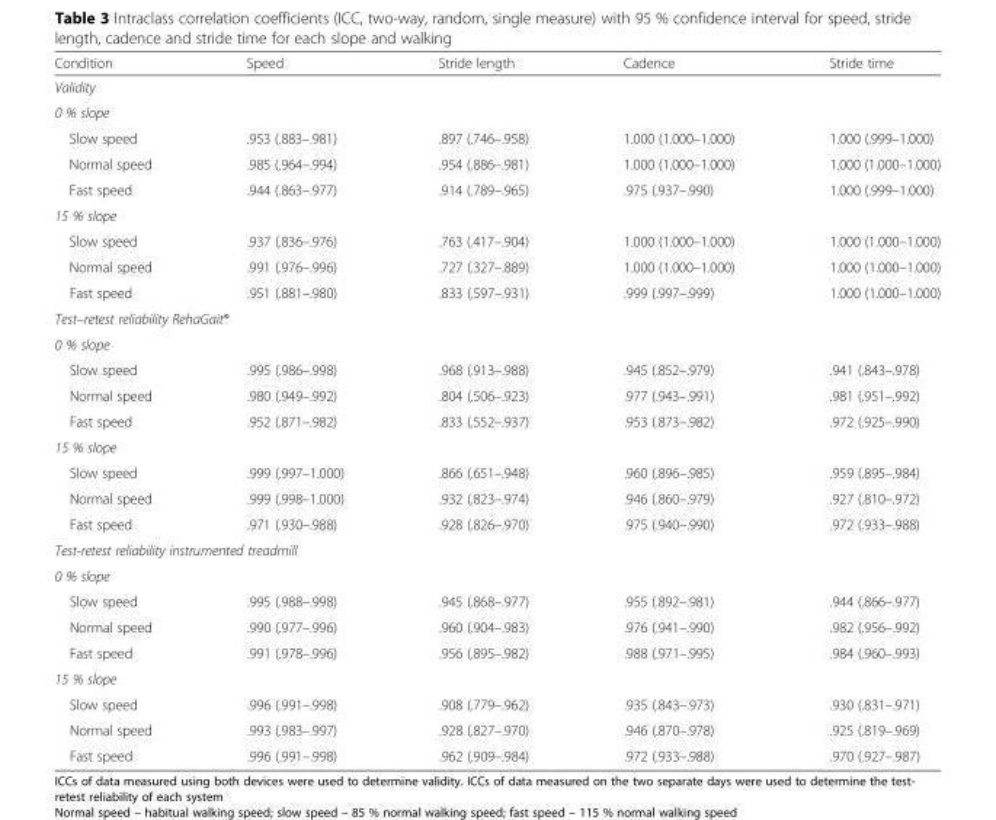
<table><thead><tr><td>Condition</td><td>Speed</td><td>Stride length</td><td>Cadence</td><td>Stride time</td></tr></thead><tbody><tr><td colspan="5">Validity</td></tr><tr><td colspan="5">0 % slope</td></tr><tr><td>Slow speed</td><td>.953 (.883–.981)</td><td>.897 (.746–.958)</td><td>1.000 (1.000–1.000)</td><td>1.000 (.999–1.000)</td></tr><tr><td>Normal speed</td><td>.985 (.964–.994)</td><td>.954 (.886–.981)</td><td>1.000 (1.000–1.000)</td><td>1.000 (1.000–1.000)</td></tr><tr><td>Fast speed</td><td>.944 (.863–.977)</td><td>.914 (.789–.965)</td><td>.975 (.937–.990)</td><td>1.000 (.999–1.000)</td></tr><tr><td colspan="5">15 % slope</td></tr><tr><td>Slow speed</td><td>.937 (.836–.976)</td><td>.763 (.417–.904)</td><td>1.000 (1.000–1.000)</td><td>1.000 (1.000–1.000)</td></tr><tr><td>Normal speed</td><td>.991 (.976–.996)</td><td>.727 (.327–.889)</td><td>1.000 (1.000–1.000)</td><td>1.000 (1.000–1.000)</td></tr><tr><td>Fast speed</td><td>.951 (.881–.980)</td><td>.833 (.597–.931)</td><td>.999 (.997–.999)</td><td>1.000 (1.000–1.000)</td></tr><tr><td colspan="5">Test–retest reliability RehaGait®</td></tr><tr><td colspan="5">0 % slope</td></tr><tr><td>Slow speed</td><td>.995 (.986–.998)</td><td>.968 (.913–.988)</td><td>.945 (.852–.979)</td><td>.941 (.843–.978)</td></tr><tr><td>Normal speed</td><td>.980 (.949–.992)</td><td>.804 (.506–.923)</td><td>.977 (.943–.991)</td><td>.981 (.951–.992)</td></tr><tr><td>Fast speed</td><td>.952 (.871–.982)</td><td>.833 (.552–.937)</td><td>.953 (.873–.982)</td><td>.972 (.925–.990)</td></tr><tr><td colspan="5">15 % slope</td></tr><tr><td>Slow speed</td><td>.999 (.997–1.000)</td><td>.866 (.651–.948)</td><td>.960 (.896–.985)</td><td>.959 (.895–.984)</td></tr><tr><td>Normal speed</td><td>.999 (.998–1.000)</td><td>.932 (.823–.974)</td><td>.946 (.860–.979)</td><td>.927 (.810–.972)</td></tr><tr><td>Fast speed</td><td>.971 (.930–.988)</td><td>.928 (.826–.970)</td><td>.975 (.940–.990)</td><td>.972 (.933–.988)</td></tr><tr><td colspan="5">Test-retest reliability instrumented treadmill</td></tr><tr><td colspan="5">0 % slope</td></tr><tr><td>Slow speed</td><td>.995 (.988–.998)</td><td>.945 (.868–.977)</td><td>.955 (.892–.981)</td><td>.944 (.866–.977)</td></tr><tr><td>Normal speed</td><td>.990 (.977–.996)</td><td>.960 (.904–.983)</td><td>.976 (.941–.990)</td><td>.982 (.956–.992)</td></tr><tr><td>Fast speed</td><td>.991 (.978–.996)</td><td>.956 (.895–.982)</td><td>.988 (.971–.995)</td><td>.984 (.960–.993)</td></tr><tr><td colspan="5">15 % slope</td></tr><tr><td>Slow speed</td><td>.996 (.991–.998)</td><td>.908 (.779–.962)</td><td>.935 (.843–.973)</td><td>.930 (.831–.971)</td></tr><tr><td>Normal speed</td><td>.993 (.983–.997)</td><td>.928 (.827–.970)</td><td>.946 (.870–.978)</td><td>.925 (.819–.969)</td></tr><tr><td>Fast speed</td><td>.996 (.991–.998)</td><td>.962 (.909–.984)</td><td>.972 (.933–.988)</td><td>.970 (.927–.987)</td></tr></tbody></table>